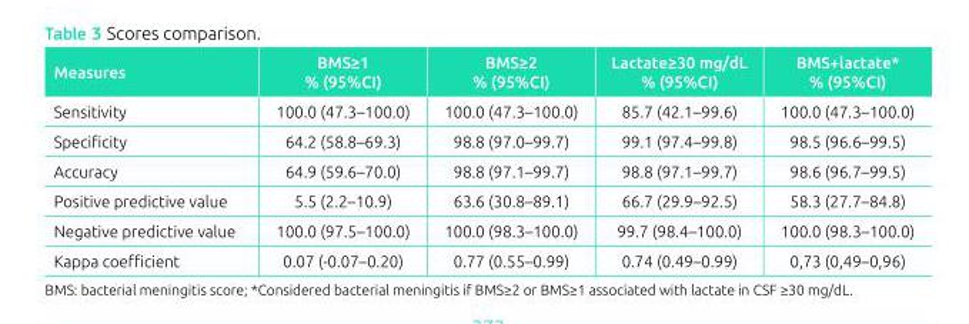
<table><thead><tr><td>Measures</td><td>BMS≥1 % (95%CI)</td><td>BMS≥2 % (95%CI)</td><td>Lactate≥30 mg/dL % (95%CI)</td><td>BMS+lactate* % (95%CI)</td></tr></thead><tbody><tr><td>Sensitivity</td><td>100.0 (47.3–100.0)</td><td>100.0 (47.3–100.0)</td><td>85.7 (42.1–99.6)</td><td>100.0 (47.3–100.0)</td></tr><tr><td>Specificity</td><td>64.2 (58.8–69.3)</td><td>98.8 (97.0–99.7)</td><td>99.1 (97.4–99.8)</td><td>98.5 (96.6–99.5)</td></tr><tr><td>Accuracy</td><td>64.9 (59.6–70.0)</td><td>98.8 (97.1–99.7)</td><td>98.8 (97.1–99.7)</td><td>98.6 (96.7–99.5)</td></tr><tr><td>Positive predictive value</td><td>5.5 (2.2–10.9)</td><td>63.6 (30.8–89.1)</td><td>66.7 (29.9–92.5)</td><td>58.3 (27.7–84.8)</td></tr><tr><td>Negative predictive value</td><td>100.0 (97.5–100.0)</td><td>100.0 (98.3–100.0)</td><td>99.7 (98.4–100.0)</td><td>100.0 (98.3–100.0)</td></tr><tr><td>Kappa coefficient</td><td>0.07 (‑0.07–0.20)</td><td>0.77 (0.55–0.99)</td><td>0.74 (0.49–0.99)</td><td>0,73 (0,49–0,96)</td></tr></tbody></table>